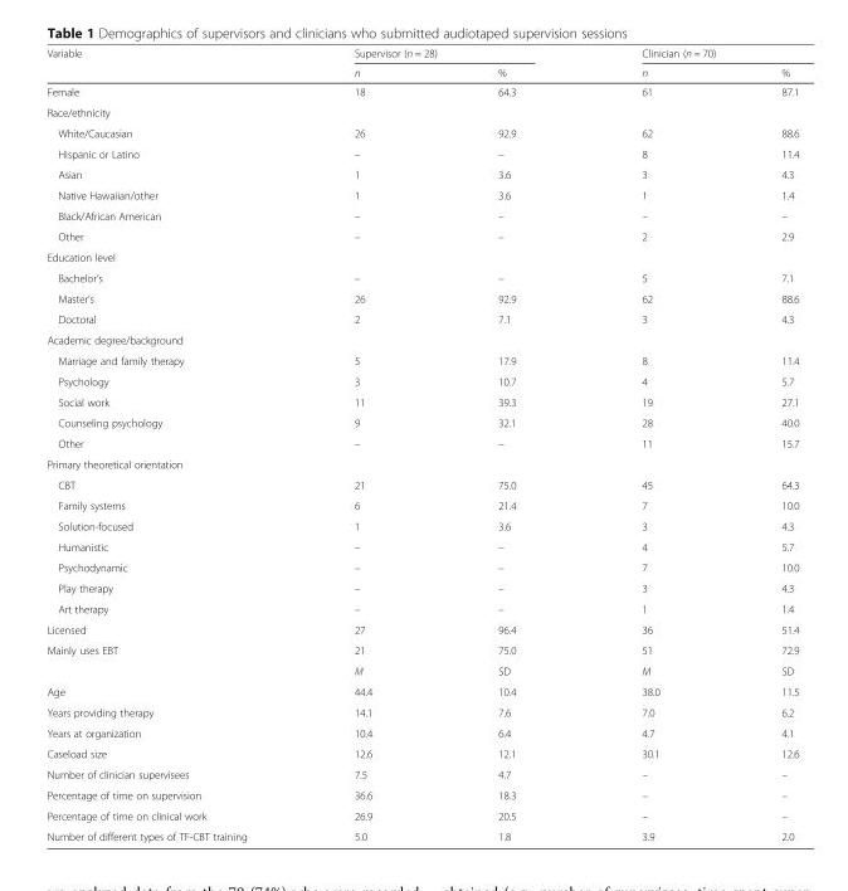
<table><thead><tr><td rowspan="2">Variable</td><td colspan="2">Supervisor (n = 28)</td><td colspan="2">Clinician (n = 70)</td></tr><tr><td>n</td><td>%</td><td>n</td><td>%</td></tr></thead><tbody><tr><td>Female</td><td>18</td><td>64.3</td><td>61</td><td>87.1</td></tr><tr><td colspan="5">Race/ethnicity</td></tr><tr><td>White/Caucasian</td><td>26</td><td>92.9</td><td>62</td><td>88.6</td></tr><tr><td>Hispanic or Latino</td><td>–</td><td>–</td><td>8</td><td>11.4</td></tr><tr><td>Asian</td><td>1</td><td>3.6</td><td>3</td><td>4.3</td></tr><tr><td>Native Hawaiian/other</td><td>1</td><td>3.6</td><td>1</td><td>1.4</td></tr><tr><td>Black/African American</td><td>–</td><td>–</td><td>–</td><td>–</td></tr><tr><td>Other</td><td>–</td><td>–</td><td>2</td><td>2.9</td></tr><tr><td colspan="5">Education level</td></tr><tr><td>Bachelor’s</td><td>–</td><td>–</td><td>5</td><td>7.1</td></tr><tr><td>Master’s</td><td>26</td><td>92.9</td><td>62</td><td>88.6</td></tr><tr><td>Doctoral</td><td>2</td><td>7.1</td><td>3</td><td>4.3</td></tr><tr><td colspan="5">Academic degree/background</td></tr><tr><td>Marriage and family therapy</td><td>5</td><td>17.9</td><td>8</td><td>11.4</td></tr><tr><td>Psychology</td><td>3</td><td>10.7</td><td>4</td><td>5.7</td></tr><tr><td>Social work</td><td>11</td><td>39.3</td><td>19</td><td>27.1</td></tr><tr><td>Counseling psychology</td><td>9</td><td>32.1</td><td>28</td><td>40.0</td></tr><tr><td>Other</td><td>–</td><td>–</td><td>11</td><td>15.7</td></tr><tr><td colspan="5">Primary theoretical orientation</td></tr><tr><td>CBT</td><td>21</td><td>75.0</td><td>45</td><td>64.3</td></tr><tr><td>Family systems</td><td>6</td><td>21.4</td><td>7</td><td>10.0</td></tr><tr><td>Solution-focused</td><td>1</td><td>3.6</td><td>3</td><td>4.3</td></tr><tr><td>Humanistic</td><td>–</td><td>–</td><td>4</td><td>5.7</td></tr><tr><td>Psychodynamic</td><td>–</td><td>–</td><td>7</td><td>10.0</td></tr><tr><td>Play therapy</td><td>–</td><td>–</td><td>3</td><td>4.3</td></tr><tr><td>Art therapy</td><td>–</td><td>–</td><td>1</td><td>1.4</td></tr><tr><td>Licensed</td><td>27</td><td>96.4</td><td>36</td><td>51.4</td></tr><tr><td rowspan="2">Mainly uses EBT</td><td>21</td><td>75.0</td><td>51</td><td>72.9</td></tr><tr><td>M</td><td>SD</td><td>M</td><td>SD</td></tr><tr><td>Age</td><td>44.4</td><td>10.4</td><td>38.0</td><td>11.5</td></tr><tr><td>Years providing therapy</td><td>14.1</td><td>7.6</td><td>7.0</td><td>6.2</td></tr><tr><td>Years at organization</td><td>10.4</td><td>6.4</td><td>4.7</td><td>4.1</td></tr><tr><td>Caseload size</td><td>12.6</td><td>12.1</td><td>30.1</td><td>12.6</td></tr><tr><td>Number of clinician supervisees</td><td>7.5</td><td>4.7</td><td>–</td><td>–</td></tr><tr><td>Percentage of time on supervision</td><td>36.6</td><td>18.3</td><td>–</td><td>–</td></tr><tr><td>Percentage of time on clinical work</td><td>26.9</td><td>20.5</td><td>–</td><td>–</td></tr><tr><td>Number of different types of TF-CBT training</td><td>5.0</td><td>1.8</td><td>3.9</td><td>2.0</td></tr></tbody></table>